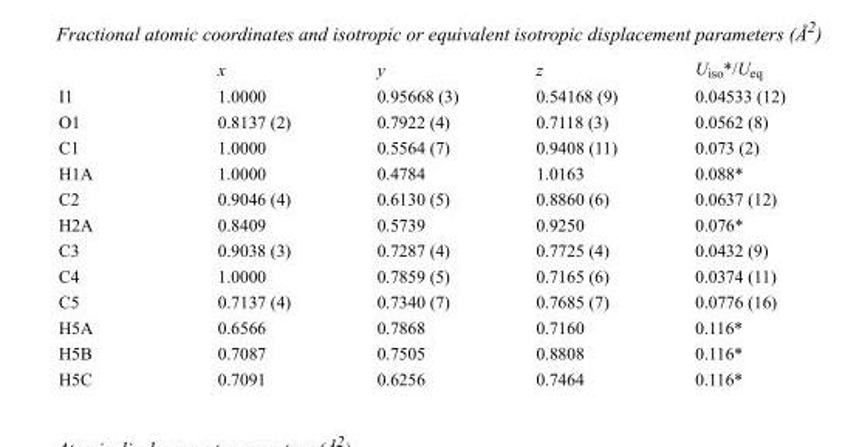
<table><thead><tr><td></td><td>x</td><td>y</td><td>z</td><td>U<sub>iso</sub>*/U<sub>eq</sub></td></tr></thead><tbody><tr><td>I1</td><td>1.0000</td><td>0.95668 (3)</td><td>0.54168 (9)</td><td>0.04533 (12)</td></tr><tr><td>O1</td><td>0.8137 (2)</td><td>0.7922 (4)</td><td>0.7118 (3)</td><td>0.0562 (8)</td></tr><tr><td>C1</td><td>1.0000</td><td>0.5564 (7)</td><td>0.9408 (11)</td><td>0.073 (2)</td></tr><tr><td>H1A</td><td>1.0000</td><td>0.4784</td><td>1.0163</td><td>0.088*</td></tr><tr><td>C2</td><td>0.9046 (4)</td><td>0.6130 (5)</td><td>0.8860 (6)</td><td>0.0637 (12)</td></tr><tr><td>H2A</td><td>0.8409</td><td>0.5739</td><td>0.9250</td><td>0.076*</td></tr><tr><td>C3</td><td>0.9038 (3)</td><td>0.7287 (4)</td><td>0.7725 (4)</td><td>0.0432 (9)</td></tr><tr><td>C4</td><td>1.0000</td><td>0.7859 (5)</td><td>0.7165 (6)</td><td>0.0374 (11)</td></tr><tr><td>C5</td><td>0.7137 (4)</td><td>0.7340 (7)</td><td>0.7685 (7)</td><td>0.0776 (16)</td></tr><tr><td>H5A</td><td>0.6566</td><td>0.7868</td><td>0.7160</td><td>0.116*</td></tr><tr><td>H5B</td><td>0.7087</td><td>0.7505</td><td>0.8808</td><td>0.116*</td></tr><tr><td>H5C</td><td>0.7091</td><td>0.6256</td><td>0.7464</td><td>0.116*</td></tr></tbody></table>